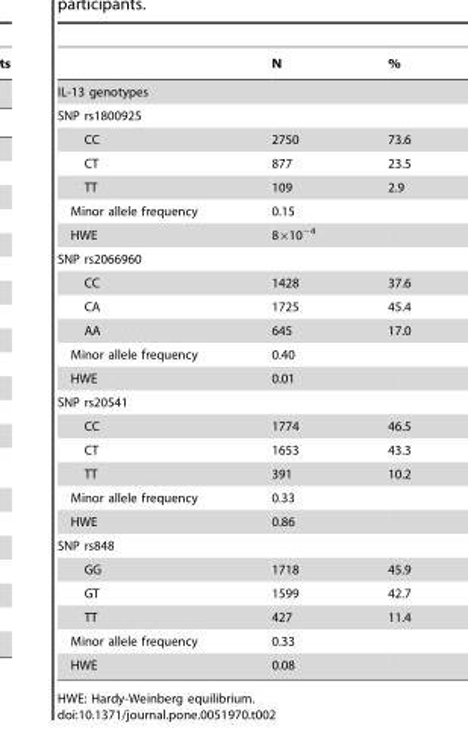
<table><thead><tr><td></td><td>N</td><td>%</td></tr></thead><tbody><tr><td colspan="3">IL-13 genotypes</td></tr><tr><td colspan="3">SNP rs1800925</td></tr><tr><td>CC</td><td>2750</td><td>73.6</td></tr><tr><td>CT</td><td>877</td><td>23.5</td></tr><tr><td>TT</td><td>109</td><td>2.9</td></tr><tr><td>Minor allele frequency</td><td>0.15</td><td></td></tr><tr><td>HWE</td><td>8×10<sup>−4</sup></td><td></td></tr><tr><td colspan="3">SNP rs2066960</td></tr><tr><td>CC</td><td>1428</td><td>37.6</td></tr><tr><td>CA</td><td>1725</td><td>45.4</td></tr><tr><td>AA</td><td>645</td><td>17.0</td></tr><tr><td>Minor allele frequency</td><td>0.40</td><td></td></tr><tr><td>HWE</td><td>0.01</td><td></td></tr><tr><td colspan="3">SNP rs20541</td></tr><tr><td>CC</td><td>1774</td><td>46.5</td></tr><tr><td>CT</td><td>1653</td><td>43.3</td></tr><tr><td>TT</td><td>391</td><td>10.2</td></tr><tr><td>Minor allele frequency</td><td>0.33</td><td></td></tr><tr><td>HWE</td><td>0.86</td><td></td></tr><tr><td colspan="3">SNP rs848</td></tr><tr><td>GG</td><td>1718</td><td>45.9</td></tr><tr><td>GT</td><td>1599</td><td>42.7</td></tr><tr><td>TT</td><td>427</td><td>11.4</td></tr><tr><td>Minor allele frequency</td><td>0.33</td><td></td></tr><tr><td>HWE</td><td>0.08</td><td></td></tr></tbody></table>